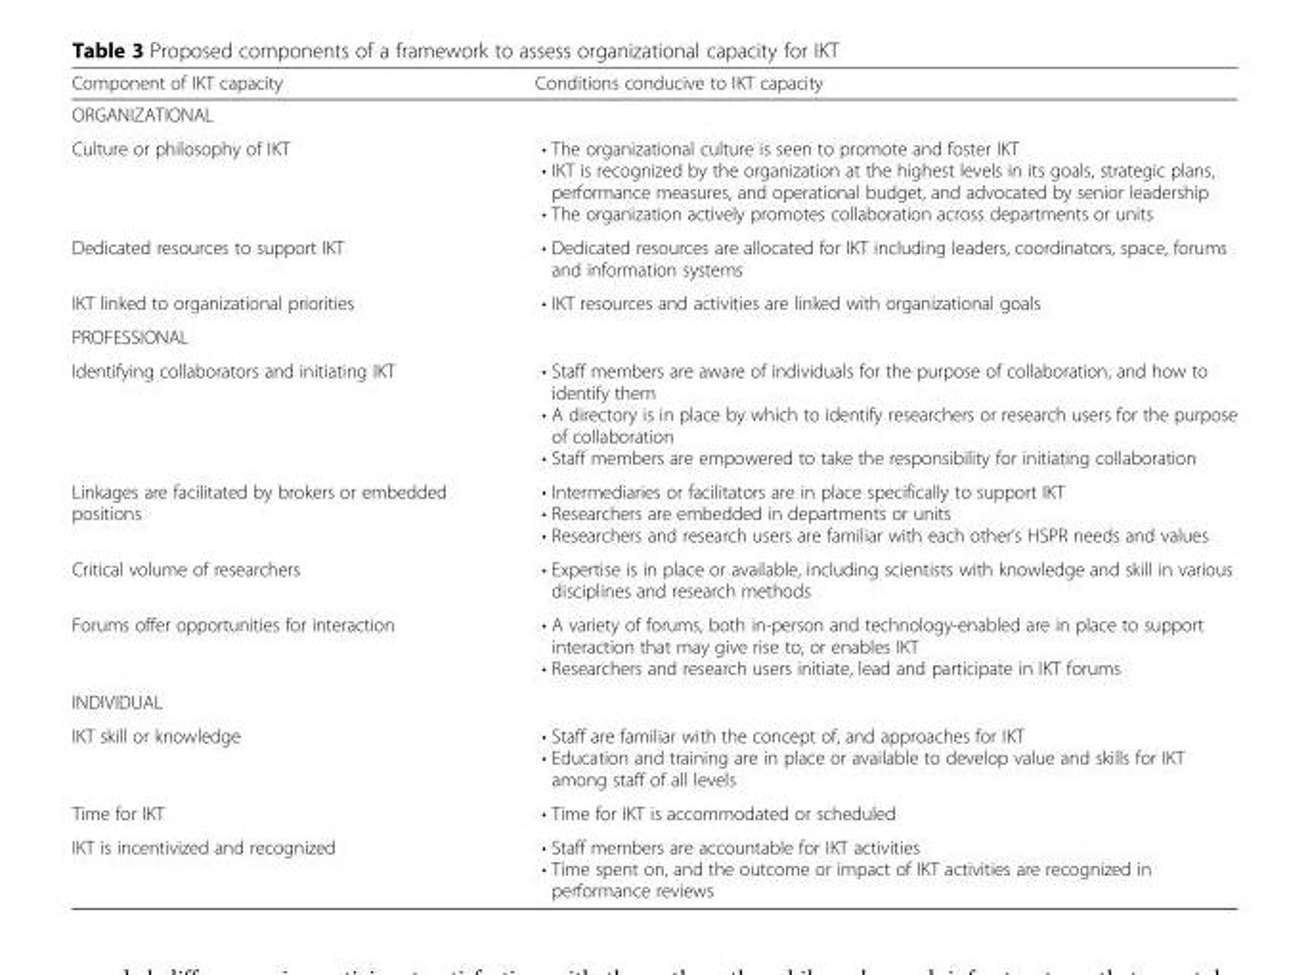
<table><thead><tr><td>Component of IKT capacity</td><td>Conditions conducive to IKT capacity</td></tr></thead><tbody><tr><td colspan="2">ORGANIZATIONAL</td></tr><tr><td>Culture or philosophy of IKT</td><td>• The organizational culture is seen to promote and foster IKT • IKT is recognized by the organization at the highest levels in its goals, strategic plans, performance measures, and operational budget, and advocated by senior leadership • The organization actively promotes collaboration across departments or units</td></tr><tr><td>Dedicated resources to support IKT</td><td>• Dedicated resources are allocated for IKT including leaders, coordinators, space, forums and information systems</td></tr><tr><td>IKT linked to organizational priorities</td><td>• IKT resources and activities are linked with organizational goals</td></tr><tr><td colspan="2">PROFESSIONAL</td></tr><tr><td>Identifying collaborators and initiating IKT</td><td>• Staff members are aware of individuals for the purpose of collaboration, and how to identify them • A directory is in place by which to identify researchers or research users for the purpose of collaboration • Staff members are empowered to take the responsibility for initiating collaboration</td></tr><tr><td>Linkages are facilitated by brokers or embedded positions</td><td>• Intermediaries or facilitators are in place specifically to support IKT • Researchers are embedded in departments or units • Researchers and research users are familiar with each other’s HSPR needs and values</td></tr><tr><td>Critical volume of researchers</td><td>• Expertise is in place or available, including scientists with knowledge and skill in various disciplines and research methods</td></tr><tr><td>Forums offer opportunities for interaction</td><td>• A variety of forums, both in-person and technology-enabled are in place to support interaction that may give rise to, or enables IKT • Researchers and research users initiate, lead and participate in IKT forums</td></tr><tr><td colspan="2">INDIVIDUAL</td></tr><tr><td>IKT skill or knowledge</td><td>• Staff are familiar with the concept of, and approaches for IKT • Education and training are in place or available to develop value and skills for IKT among staff of all levels</td></tr><tr><td>Time for IKT</td><td>• Time for IKT is accommodated or scheduled</td></tr><tr><td>IKT is incentivized and recognized</td><td>• Staff members are accountable for IKT activities • Time spent on, and the outcome or impact of IKT activities are recognized in performance reviews</td></tr></tbody></table>